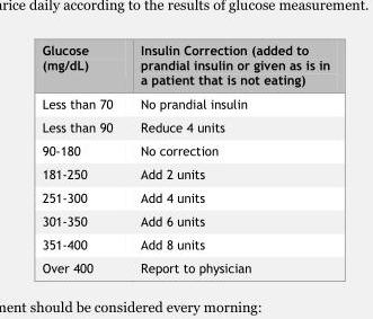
<table><thead><tr><td>Glucose (mg/dL)</td><td>Insulin Correction (added to prandial insulin or given as is in a patient that is not eating)</td></tr></thead><tbody><tr><td>Less than 70</td><td>No prandial insulin</td></tr><tr><td>Less than 90</td><td>Reduce 4 units</td></tr><tr><td>90-180</td><td>No correction</td></tr><tr><td>181-250</td><td>Add 2 units</td></tr><tr><td>251-300</td><td>Add 4 units</td></tr><tr><td>301-350</td><td>Add 6 units</td></tr><tr><td>351-400</td><td>Add 8 units</td></tr><tr><td>Over 400</td><td>Report to physician</td></tr></tbody></table>